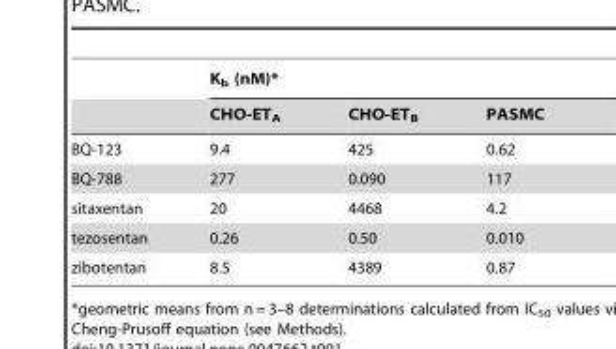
<table><thead><tr><td rowspan="2"></td><td colspan="3">K<sub>b</sub> (nM)*</td></tr><tr><td>CHO-ET<sub>A</sub></td><td>CHO-ET<sub>B</sub></td><td>PASMC</td></tr></thead><tbody><tr><td>BQ-123</td><td>9.4</td><td>425</td><td>0.62</td></tr><tr><td>BQ-788</td><td>277</td><td>0.090</td><td>117</td></tr><tr><td>sitaxentan</td><td>20</td><td>4468</td><td>4.2</td></tr><tr><td>tezosentan</td><td>0.26</td><td>0.50</td><td>0.010</td></tr><tr><td>zibotentan</td><td>8.5</td><td>4389</td><td>0.87</td></tr></tbody></table>